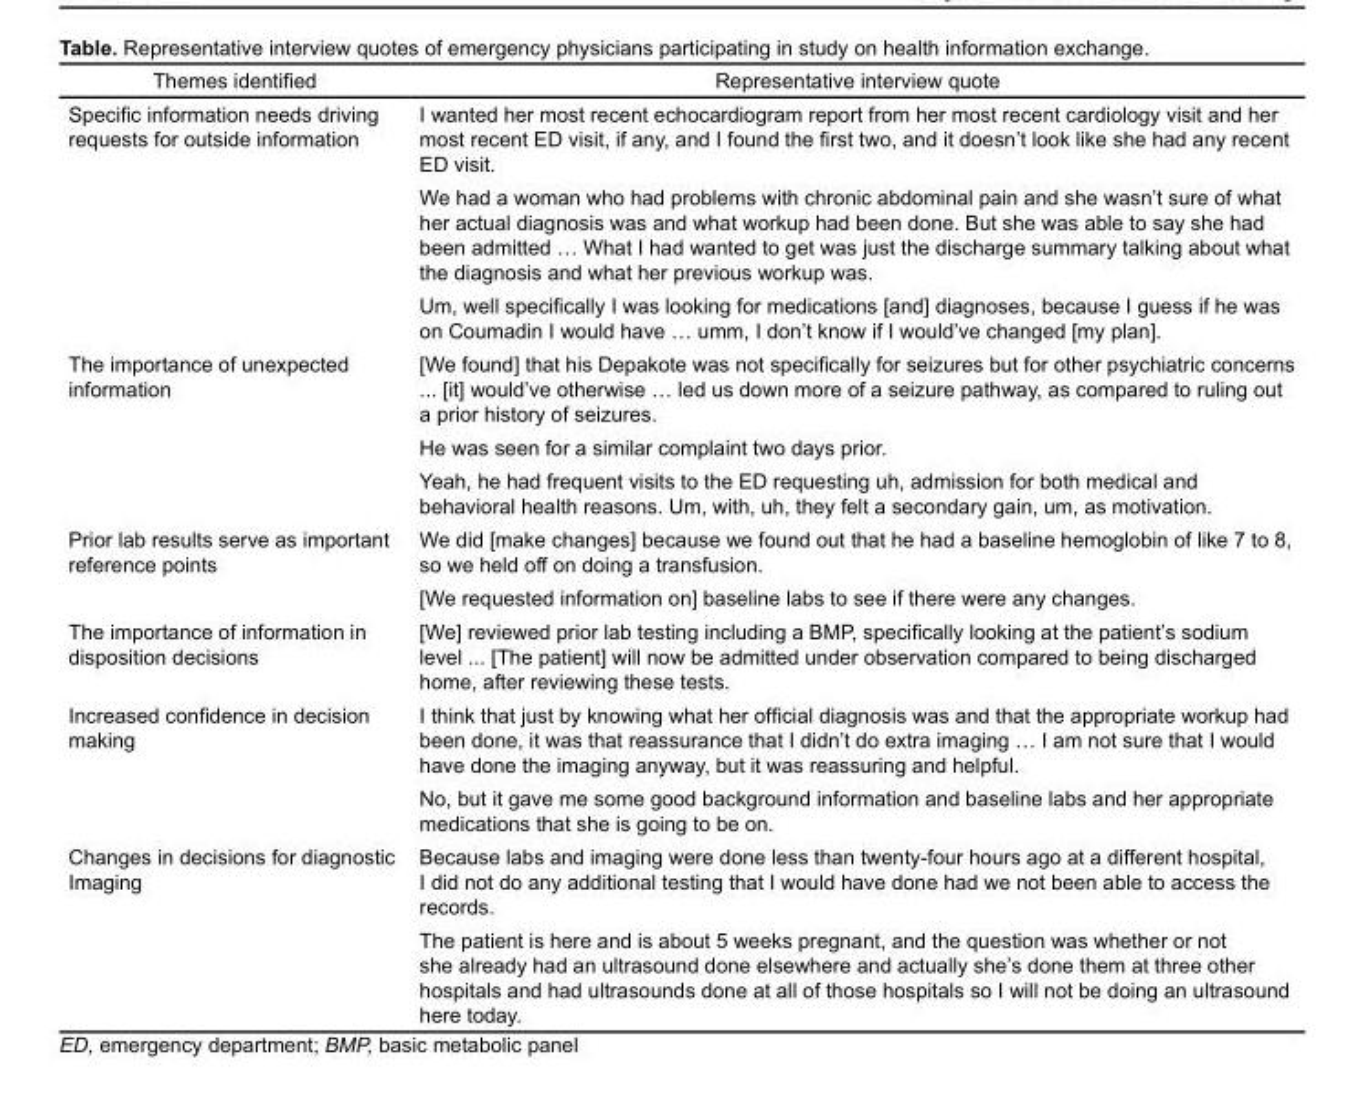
<table><thead><tr><td>Themes identified</td><td>Representative interview quote</td></tr></thead><tbody><tr><td>Specific information needs driving requests for outside information</td><td>I wanted her most recent echocardiogram report from her most recent cardiology visit and her most recent ED visit, if any, and I found the first two, and it doesn’t look like she had any recent ED visit. We had a woman who had problems with chronic abdominal pain and she wasn’t sure of what her actual diagnosis was and what workup had been done. But she was able to say she had been admitted … What I had wanted to get was just the discharge summary talking about what the diagnosis and what her previous workup was. Um, well specifically I was looking for medications [and] diagnoses, because I guess if he was on Coumadin I would have … umm, I don’t know if I would’ve changed [my plan].</td></tr><tr><td>The importance of unexpected information</td><td>[We found] that his Depakote was not specifically for seizures but for other psychiatric concerns ... [it] would’ve otherwise … led us down more of a seizure pathway, as compared to ruling out a prior history of seizures. He was seen for a similar complaint two days prior. Yeah, he had frequent visits to the ED requesting uh, admission for both medical and behavioral health reasons. Um, with, uh, they felt a secondary gain, um, as motivation.</td></tr><tr><td>Prior lab results serve as important reference points</td><td>We did [make changes] because we found out that he had a baseline hemoglobin of like 7 to 8, so we held off on doing a transfusion. [We requested information on] baseline labs to see if there were any changes.</td></tr><tr><td>The importance of information in disposition decisions</td><td>[We] reviewed prior lab testing including a BMP, specifically looking at the patient’s sodium level ... [The patient] will now be admitted under observation compared to being discharged home, after reviewing these tests.</td></tr><tr><td>Increased confidence in decision making</td><td>I think that just by knowing what her official diagnosis was and that the appropriate workup had been done, it was that reassurance that I didn’t do extra imaging … I am not sure that I would have done the imaging anyway, but it was reassuring and helpful. No, but it gave me some good background information and baseline labs and her appropriate medications that she is going to be on.</td></tr><tr><td>Changes in decisions for diagnostic Imaging</td><td>Because labs and imaging were done less than twenty-four hours ago at a different hospital, I did not do any additional testing that I would have done had we not been able to access the records. The patient is here and is about 5 weeks pregnant, and the question was whether or not she already had an ultrasound done elsewhere and actually she’s done them at three other hospitals and had ultrasounds done at all of those hospitals so I will not be doing an ultrasound here today.</td></tr></tbody></table>